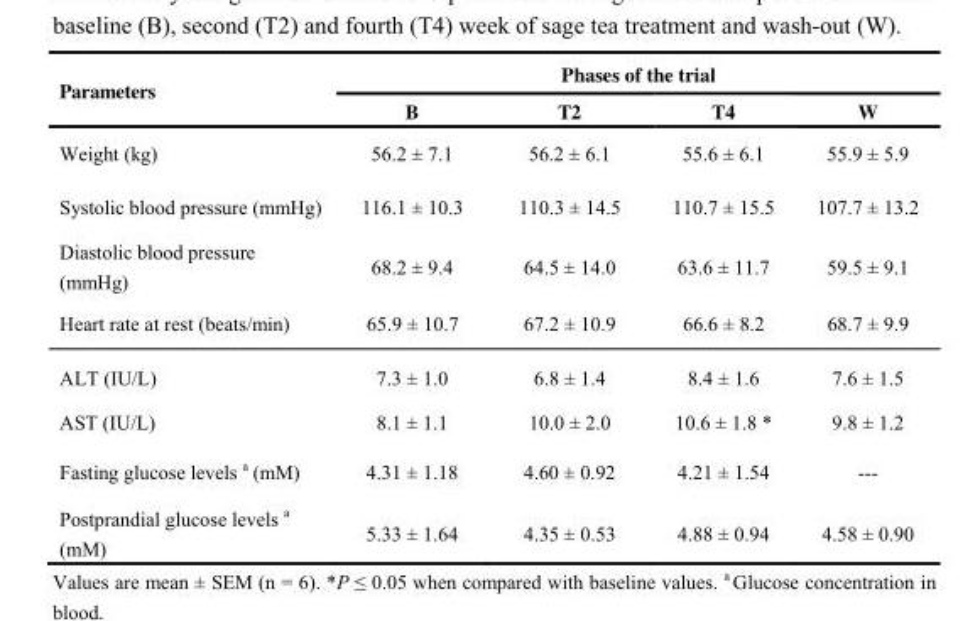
<table><thead><tr><td rowspan="2">Parameters</td><td colspan="4">Phases of the trial</td></tr><tr><td>B</td><td>T2</td><td>T4</td><td>W</td></tr></thead><tbody><tr><td>Weight (kg)</td><td>56.2 ± 7.1</td><td>56.2 ± 6.1</td><td>55.6 ± 6.1</td><td>55.9 ± 5.9</td></tr><tr><td>Systolic blood pressure (mmHg)</td><td>116.1 ± 10.3</td><td>110.3 ± 14.5</td><td>110.7 ± 15.5</td><td>107.7 ± 13.2</td></tr><tr><td>Diastolic blood pressure (mmHg)</td><td>68.2 ± 9.4</td><td>64.5 ± 14.0</td><td>63.6 ± 11.7</td><td>59.5 ± 9.1</td></tr><tr><td>Heart rate at rest (beats/min)</td><td>65.9 ± 10.7</td><td>67.2 ± 10.9</td><td>66.6 ± 8.2</td><td>68.7 ± 9.9</td></tr><tr><td>ALT (IU/L)</td><td>7.3 ± 1.0</td><td>6.8 ± 1.4</td><td>8.4 ± 1.6</td><td>7.6 ± 1.5</td></tr><tr><td>AST (IU/L)</td><td>8.1 ± 1.1</td><td>10.0 ± 2.0</td><td>10.6 ± 1.8 *</td><td>9.8 ± 1.2</td></tr><tr><td>Fasting glucose levels <sup>a</sup> (mM)</td><td>4.31 ± 1.18</td><td>4.60 ± 0.92</td><td>4.21 ± 1.54</td><td>---</td></tr><tr><td>Postprandial glucose levels <sup>a</sup> (mM)</td><td>5.33 ± 1.64</td><td>4.35 ± 0.53</td><td>4.88 ± 0.94</td><td>4.58 ± 0.90</td></tr></tbody></table>